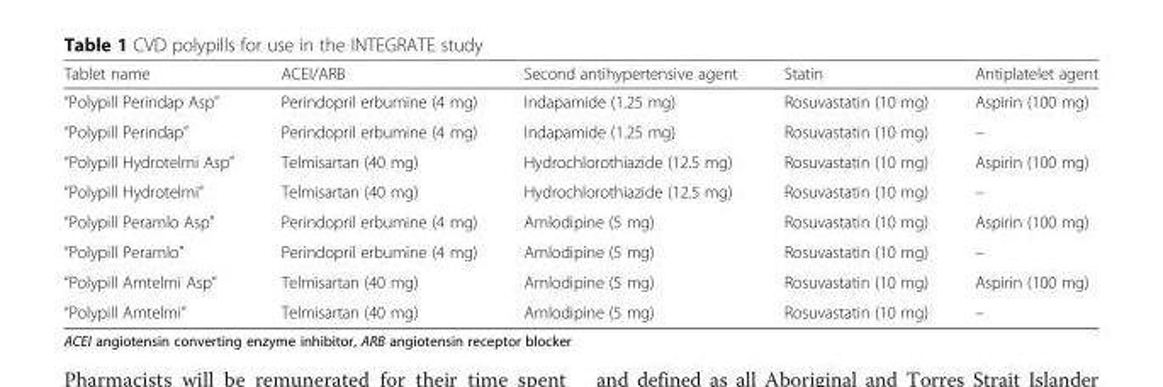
<table><thead><tr><td>Tablet name</td><td>ACEI/ARB</td><td>Second antihypertensive agent</td><td>Statin</td><td>Antiplatelet agent</td></tr></thead><tbody><tr><td>“Polypill Perindap Asp”</td><td>Perindopril erbumine (4 mg)</td><td>Indapamide (1.25 mg)</td><td>Rosuvastatin (10 mg)</td><td>Aspirin (100 mg)</td></tr><tr><td>“Polypill Perindap”</td><td>Perindopril erbumine (4 mg)</td><td>Indapamide (1.25 mg)</td><td>Rosuvastatin (10 mg)</td><td>–</td></tr><tr><td>“Polypill Hydrotelmi Asp”</td><td>Telmisartan (40 mg)</td><td>Hydrochlorothiazide (12.5 mg)</td><td>Rosuvastatin (10 mg)</td><td>Aspirin (100 mg)</td></tr><tr><td>“Polypill Hydrotelmi”</td><td>Telmisartan (40 mg)</td><td>Hydrochlorothiazide (12.5 mg)</td><td>Rosuvastatin (10 mg)</td><td>–</td></tr><tr><td>“Polypill Peramlo Asp”</td><td>Perindopril erbumine (4 mg)</td><td>Amlodipine (5 mg)</td><td>Rosuvastatin (10 mg)</td><td>Aspirin (100 mg)</td></tr><tr><td>“Polypill Peramlo”</td><td>Perindopril erbumine (4 mg)</td><td>Amlodipine (5 mg)</td><td>Rosuvastatin (10 mg)</td><td>–</td></tr><tr><td>“Polypill Amtelmi Asp”</td><td>Telmisartan (40 mg)</td><td>Amlodipine (5 mg)</td><td>Rosuvastatin (10 mg)</td><td>Aspirin (100 mg)</td></tr><tr><td>“Polypill Amtelmi”</td><td>Telmisartan (40 mg)</td><td>Amlodipine (5 mg)</td><td>Rosuvastatin (10 mg)</td><td>–</td></tr></tbody></table>